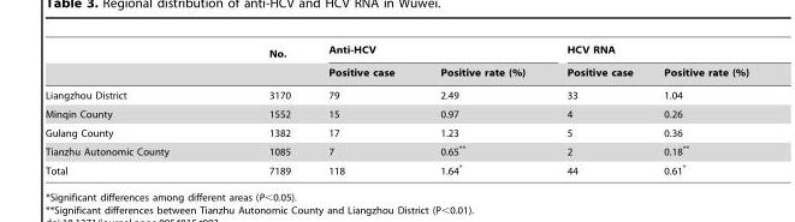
<table><thead><tr><td rowspan="2"></td><td rowspan="2">No.</td><td colspan="2">Anti-HCV</td><td colspan="2">HCV RNA</td></tr><tr><td>Positive case</td><td>Positive rate (%)</td><td>Positive case</td><td>Positive rate (%)</td></tr></thead><tbody><tr><td>Liangzhou District</td><td>3170</td><td>79</td><td>2.49</td><td>33</td><td>1.04</td></tr><tr><td>Minqin County</td><td>1552</td><td>15</td><td>0.97</td><td>4</td><td>0.26</td></tr><tr><td>Gulang County</td><td>1382</td><td>17</td><td>1.23</td><td>5</td><td>0.36</td></tr><tr><td>Tianzhu Autonomic County</td><td>1085</td><td>7</td><td>0.65**</td><td>2</td><td>0.18**</td></tr><tr><td>Total</td><td>7189</td><td>118</td><td>1.64*</td><td>44</td><td>0.61*</td></tr></tbody></table>